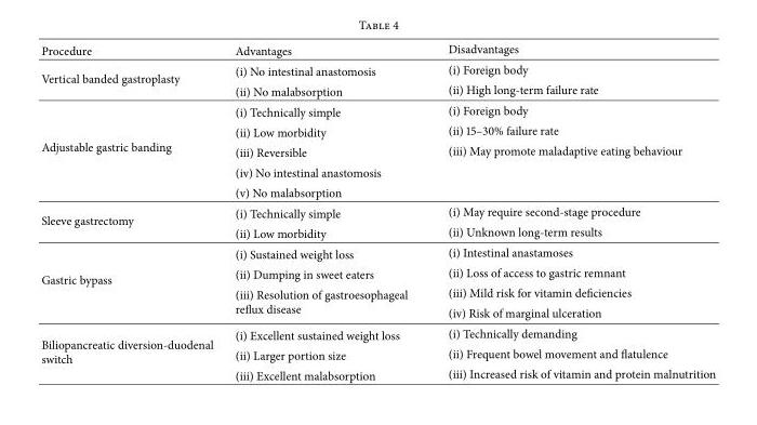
<table><thead><tr><td>Procedure</td><td>Advantages</td><td>Disadvantages</td></tr></thead><tbody><tr><td rowspan="2">Vertical banded gastroplasty</td><td>(i) No intestinal anastomosis</td><td>(i) Foreign body</td></tr><tr><td>(ii) No malabsorption</td><td>(ii) High long-term failure rate</td></tr><tr><td rowspan="5">Adjustable gastric banding</td><td>(i) Technically simple</td><td>(i) Foreign body</td></tr><tr><td>(ii) Low morbidity</td><td>(ii) 15–30% failure rate</td></tr><tr><td>(iii) Reversible</td><td>(iii) May promote maladaptive eating behaviour</td></tr><tr><td>(iv) No intestinal anastomosis</td><td></td></tr><tr><td>(v) No malabsorption</td><td></td></tr><tr><td rowspan="2">Sleeve gastrectomy</td><td>(i) Technically simple</td><td>(i) May require second-stage procedure</td></tr><tr><td>(ii) Low morbidity</td><td>(ii) Unknown long-term results</td></tr><tr><td rowspan="4">Gastric bypass</td><td>(i) Sustained weight loss</td><td>(i) Intestinal anastamoses</td></tr><tr><td>(ii) Dumping in sweet eaters</td><td>(ii) Loss of access to gastric remnant</td></tr><tr><td rowspan="2">(iii) Resolution of gastroesophageal reflux disease</td><td>(iii) Mild risk for vitamin deficiencies</td></tr><tr><td>(iv) Risk of marginal ulceration</td></tr><tr><td rowspan="3">Biliopancreatic diversion-duodenal switch</td><td>(i) Excellent sustained weight loss</td><td>(i) Technically demanding</td></tr><tr><td>(ii) Larger portion size</td><td>(ii) Frequent bowel movement and flatulence</td></tr><tr><td>(iii) Excellent malabsorption</td><td>(iii) Increased risk of vitamin and protein malnutrition</td></tr></tbody></table>